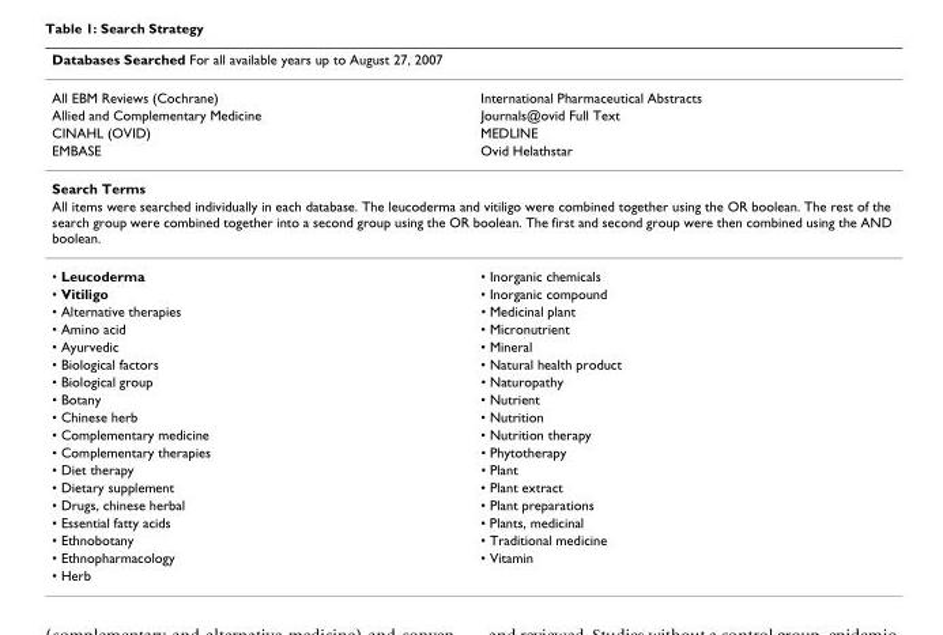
<table><thead><tr><td colspan="2">Databases Searched For all available years up to August 27, 2007</td></tr><tr><td>All EBM Reviews (Cochrane)</td><td>International Pharmaceutical Abstracts</td></tr></thead><tbody><tr><td>Allied and Complementary Medicine</td><td>Journals@ovid Full Text</td></tr><tr><td>CINAHL (OVID)</td><td>MEDLINE</td></tr><tr><td>EMBASE</td><td>Ovid Helathstar</td></tr><tr><td colspan="2">Search Terms</td></tr><tr><td colspan="2">All items were searched individually in each database. The leucoderma and vitiligo were combined together using the OR boolean. The rest of the search group were combined together into a second group using the OR boolean. The first and second group were then combined using the AND boolean.</td></tr><tr><td>• Leucoderma</td><td>• Inorganic chemicals</td></tr><tr><td>• Vitiligo</td><td>• Inorganic compound</td></tr><tr><td>• Alternative therapies</td><td>• Medicinal plant</td></tr><tr><td>• Amino acid</td><td>• Micronutrient</td></tr><tr><td>• Ayurvedic</td><td>• Mineral</td></tr><tr><td>• Biological factors</td><td>• Natural health product</td></tr><tr><td>• Biological group</td><td>• Naturopathy</td></tr><tr><td>• Botany</td><td>• Nutrient</td></tr><tr><td>• Chinese herb</td><td>• Nutrition</td></tr><tr><td>• Complementary medicine</td><td>• Nutrition therapy</td></tr><tr><td>• Complementary therapies</td><td>• Phytotherapy</td></tr><tr><td>• Diet therapy</td><td>• Plant</td></tr><tr><td>• Dietary supplement</td><td>• Plant extract</td></tr><tr><td>• Drugs, chinese herbal</td><td>• Plant preparations</td></tr><tr><td>• Essential fatty acids</td><td>• Plants, medicinal</td></tr><tr><td>• Ethnobotany</td><td>• Traditional medicine</td></tr><tr><td>• Ethnopharmacology</td><td>• Vitamin</td></tr><tr><td>• Herb</td><td></td></tr></tbody></table>